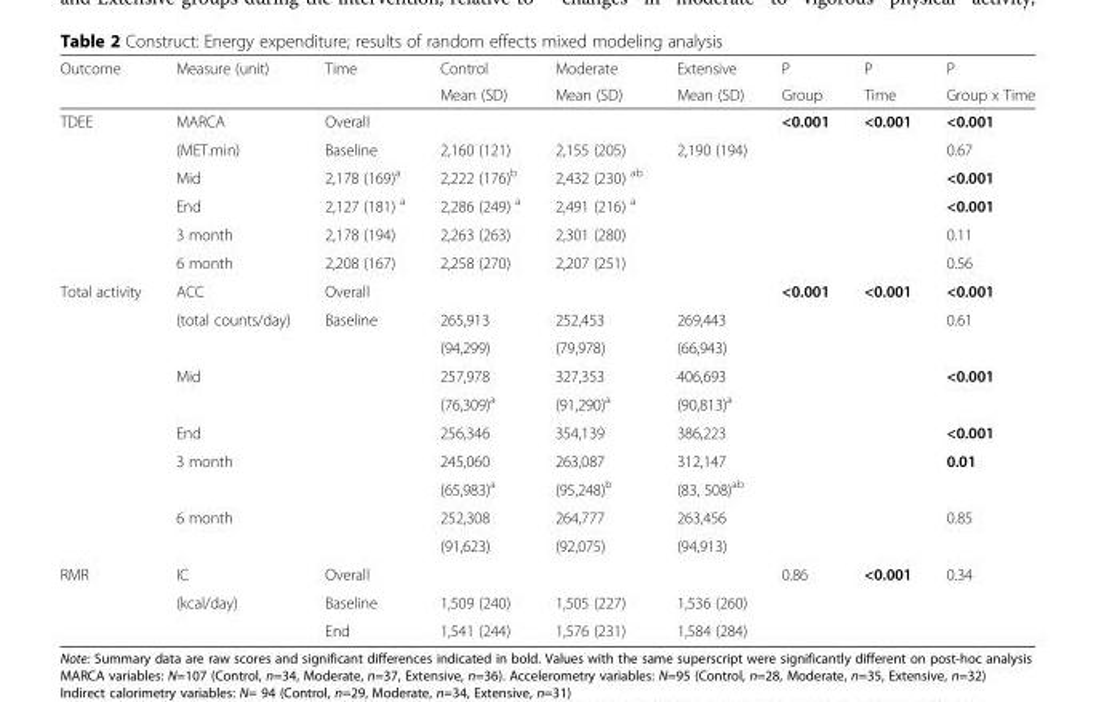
<table><thead><tr><td rowspan="2">Outcome</td><td rowspan="2">Measure (unit)</td><td rowspan="2">Time</td><td rowspan="2">Control Mean (SD)</td><td rowspan="2">Moderate Mean (SD)</td><td rowspan="2">Extensive Mean (SD)</td><td rowspan="2">P Group</td><td rowspan="2">P Time</td><td rowspan="2">P Group x Time</td></tr><tr></tr></thead><tbody><tr><td rowspan="6">TDEE</td><td>MARCA</td><td>Overall</td><td></td><td></td><td></td><td>&lt;0.001</td><td>&lt;0.001</td><td>&lt;0.001</td></tr><tr><td>(MET.min)</td><td>Baseline</td><td>2,160 (121)</td><td>2,155 (205)</td><td>2,190 (194)</td><td></td><td></td><td>0.67</td></tr><tr><td>Mid</td><td>2,178 (169)<sup>a</sup></td><td>2,222 (176)<sup>b</sup></td><td>2,432 (230) <sup>ab</sup></td><td></td><td></td><td></td><td>&lt;0.001</td></tr><tr><td>End</td><td>2,127 (181) <sup>a</sup></td><td>2,286 (249) <sup>a</sup></td><td>2,491 (216) <sup>a</sup></td><td></td><td></td><td></td><td>&lt;0.001</td></tr><tr><td>3 month</td><td>2,178 (194)</td><td>2,263 (263)</td><td>2,301 (280)</td><td></td><td></td><td></td><td>0.11</td></tr><tr><td>6 month</td><td>2,208 (167)</td><td>2,258 (270)</td><td>2,207 (251)</td><td></td><td></td><td></td><td>0.56</td></tr><tr><td rowspan="10">Total activity</td><td>ACC</td><td>Overall</td><td></td><td></td><td></td><td>&lt;0.001</td><td>&lt;0.001</td><td>&lt;0.001</td></tr><tr><td>(total counts/day)</td><td>Baseline</td><td>265,913</td><td>252,453</td><td>269,443</td><td></td><td></td><td>0.61</td></tr><tr><td></td><td></td><td>(94,299)</td><td>(79,978)</td><td>(66,943)</td><td></td><td></td><td></td></tr><tr><td>Mid</td><td></td><td>257,978</td><td>327,353</td><td>406,693</td><td></td><td></td><td>&lt;0.001</td></tr><tr><td></td><td></td><td>(76,309)<sup>a</sup></td><td>(91,290)<sup>a</sup></td><td>(90,813)<sup>a</sup></td><td></td><td></td><td></td></tr><tr><td>End</td><td></td><td>256,346</td><td>354,139</td><td>386,223</td><td></td><td></td><td>&lt;0.001</td></tr><tr><td>3 month</td><td></td><td>245,060</td><td>263,087</td><td>312,147</td><td></td><td></td><td>0.01</td></tr><tr><td></td><td></td><td>(65,983)<sup>a</sup></td><td>(95,248)<sup>b</sup></td><td>(83, 508)<sup>ab</sup></td><td></td><td></td><td></td></tr><tr><td>6 month</td><td></td><td>252,308</td><td>264,777</td><td>263,456</td><td></td><td></td><td>0.85</td></tr><tr><td></td><td></td><td>(91,623)</td><td>(92,075)</td><td>(94,913)</td><td></td><td></td><td></td></tr><tr><td rowspan="3">RMR</td><td>IC</td><td>Overall</td><td></td><td></td><td></td><td>0.86</td><td>&lt;0.001</td><td>0.34</td></tr><tr><td>(kcal/day)</td><td>Baseline</td><td>1,509 (240)</td><td>1,505 (227)</td><td>1,536 (260)</td><td></td><td></td><td></td></tr><tr><td></td><td>End</td><td>1,541 (244)</td><td>1,576 (231)</td><td>1,584 (284)</td><td></td><td></td><td></td></tr></tbody></table>